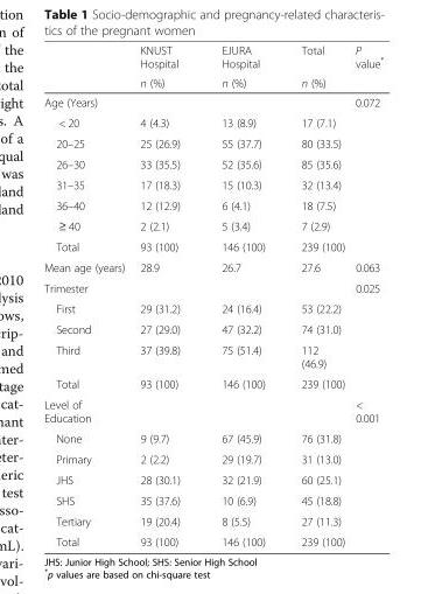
<table><thead><tr><td rowspan="2"></td><td rowspan="2">KNUST Hospital n (%)</td><td rowspan="2">EJURA Hospital n (%)</td><td rowspan="2">Total n (%)</td><td rowspan="2">P value*</td></tr><tr></tr></thead><tbody><tr><td>Age (Years)</td><td></td><td></td><td></td><td>0.072</td></tr><tr><td>&lt; 20</td><td>4 (4.3)</td><td>13 (8.9)</td><td>17 (7.1)</td><td></td></tr><tr><td>20–25</td><td>25 (26.9)</td><td>55 (37.7)</td><td>80 (33.5)</td><td></td></tr><tr><td>26–30</td><td>33 (35.5)</td><td>52 (35.6)</td><td>85 (35.6)</td><td></td></tr><tr><td>31–35</td><td>17 (18.3)</td><td>15 (10.3)</td><td>32 (13.4)</td><td></td></tr><tr><td>36–40</td><td>12 (12.9)</td><td>6 (4.1)</td><td>18 (7.5)</td><td></td></tr><tr><td>≥ 40</td><td>2 (2.1)</td><td>5 (3.4)</td><td>7 (2.9)</td><td></td></tr><tr><td>Total</td><td>93 (100)</td><td>146 (100)</td><td>239 (100)</td><td></td></tr><tr><td>Mean age (years)</td><td>28.9</td><td>26.7</td><td>27.6</td><td>0.063</td></tr><tr><td>Trimester</td><td></td><td></td><td></td><td>0.025</td></tr><tr><td>First</td><td>29 (31.2)</td><td>24 (16.4)</td><td>53 (22.2)</td><td></td></tr><tr><td>Second</td><td>27 (29.0)</td><td>47 (32.2)</td><td>74 (31.0)</td><td></td></tr><tr><td>Third</td><td>37 (39.8)</td><td>75 (51.4)</td><td>112 (46.9)</td><td></td></tr><tr><td>Total</td><td>93 (100)</td><td>146 (100)</td><td>239 (100)</td><td></td></tr><tr><td>Level of Education</td><td></td><td></td><td></td><td>&lt; 0.001</td></tr><tr><td>None</td><td>9 (9.7)</td><td>67 (45.9)</td><td>76 (31.8)</td><td></td></tr><tr><td>Primary</td><td>2 (2.2)</td><td>29 (19.7)</td><td>31 (13.0)</td><td></td></tr><tr><td>JHS</td><td>28 (30.1)</td><td>32 (21.9)</td><td>60 (25.1)</td><td></td></tr><tr><td>SHS</td><td>35 (37.6)</td><td>10 (6.9)</td><td>45 (18.8)</td><td></td></tr><tr><td>Tertiary</td><td>19 (20.4)</td><td>8 (5.5)</td><td>27 (11.3)</td><td></td></tr><tr><td>Total</td><td>93 (100)</td><td>146 (100)</td><td>239 (100)</td><td></td></tr></tbody></table>